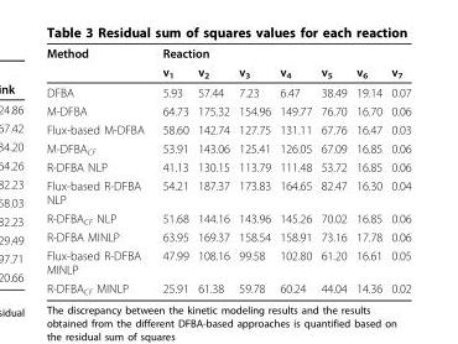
<table><thead><tr><td rowspan="2">Method</td><td colspan="2">Reaction</td><td rowspan="2">v<sub>3</sub></td><td rowspan="2">v<sub>4</sub></td><td rowspan="2">v<sub>5</sub></td><td rowspan="2">v<sub>6</sub></td><td rowspan="2">v<sub>7</sub></td></tr><tr><td>v<sub>1</sub></td><td>v<sub>2</sub></td></tr></thead><tbody><tr><td>DFBA</td><td>5.93</td><td>57.44</td><td>7.23</td><td>6.47</td><td>38.49</td><td>19.14</td><td>0.07</td></tr><tr><td>M-DFBA</td><td>64.73</td><td>175.32</td><td>154.96</td><td>149.77</td><td>76.70</td><td>16.70</td><td>0.06</td></tr><tr><td>Flux-based M-DFBA</td><td>58.60</td><td>142.74</td><td>127.75</td><td>131.11</td><td>67.76</td><td>16.47</td><td>0.03</td></tr><tr><td>M-DFBA<sub>CF</sub></td><td>53.91</td><td>143.06</td><td>125.41</td><td>126.05</td><td>67.09</td><td>16.85</td><td>0.06</td></tr><tr><td>R-DFBA NLP</td><td>41.13</td><td>130.15</td><td>113.79</td><td>111.48</td><td>53.72</td><td>16.85</td><td>0.06</td></tr><tr><td>Flux-based R-DFBA NLP</td><td>54.21</td><td>187.37</td><td>173.83</td><td>164.65</td><td>82.47</td><td>16.30</td><td>0.04</td></tr><tr><td>R-DFBA<sub>CF</sub> NLP</td><td>51.68</td><td>144.16</td><td>143.96</td><td>145.26</td><td>70.02</td><td>16.85</td><td>0.06</td></tr><tr><td>R-DFBA MINLP</td><td>63.95</td><td>169.37</td><td>158.54</td><td>158.91</td><td>73.16</td><td>17.78</td><td>0.06</td></tr><tr><td>Flux-based R-DFBA MINLP</td><td>47.99</td><td>108.16</td><td>99.58</td><td>102.80</td><td>61.20</td><td>16.61</td><td>0.05</td></tr><tr><td>R-DFBA<sub>CF</sub> MINLP</td><td>25.91</td><td>61.38</td><td>59.78</td><td>60.24</td><td>44.04</td><td>14.36</td><td>0.02</td></tr></tbody></table>